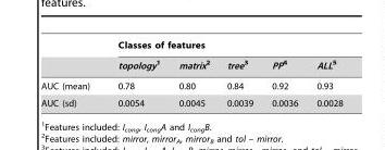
<table><thead><tr><td rowspan="2"></td><td colspan="5">Classes of features</td></tr><tr><td>topology1</td><td>matrix2</td><td>tree3</td><td>PP4</td><td>ALL5</td></tr></thead><tbody><tr><td>AUC (mean)</td><td>0.78</td><td>0.80</td><td>0.84</td><td>0.92</td><td>0.93</td></tr><tr><td>AUC (sd)</td><td>0.0054</td><td>0.0045</td><td>0.0039</td><td>0.0036</td><td>0.0028</td></tr></tbody></table>